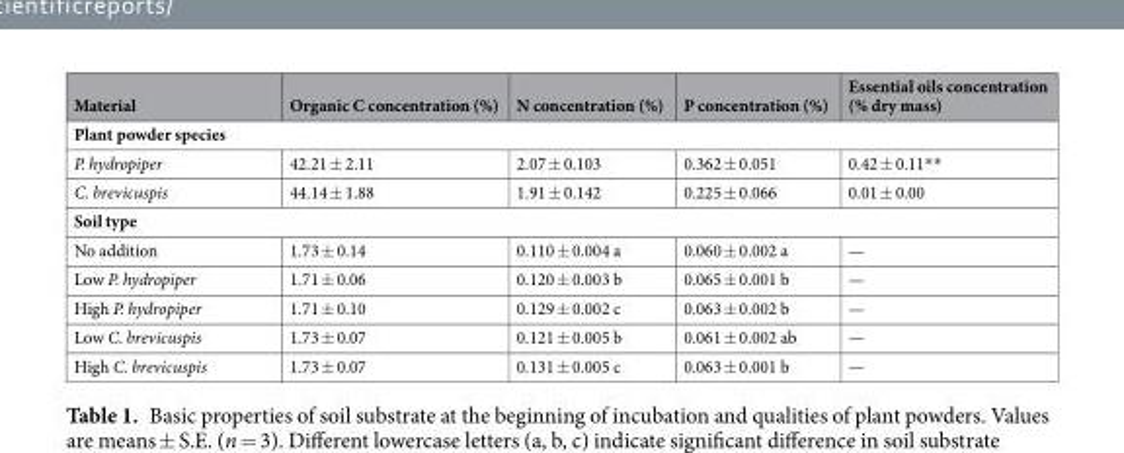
<table><thead><tr><td>Material</td><td>Organic C concentration (%)</td><td>N concentration (%)</td><td>P concentration (%)</td><td>Essential oils concentration (% dry mass)</td></tr></thead><tbody><tr><td colspan="5">Plant powder species</td></tr><tr><td>P. hydropiper</td><td>42.21 ± 2.11</td><td>2.07 ± 0.103</td><td>0.362 ± 0.051</td><td>0.42 ± 0.11**</td></tr><tr><td>C. brevicuspis</td><td>44.14 ± 1.88</td><td>1.91 ± 0.142</td><td>0.225 ± 0.066</td><td>0.01 ± 0.00</td></tr><tr><td colspan="5">Soil type</td></tr><tr><td>No addition</td><td>1.73 ± 0.14</td><td>0.110 ± 0.004 a</td><td>0.060 ± 0.002 a</td><td>—</td></tr><tr><td>Low P. hydropiper</td><td>1.71 ± 0.06</td><td>0.120 ± 0.003 b</td><td>0.065 ± 0.001 b</td><td>—</td></tr><tr><td>High P. hydropiper</td><td>1.71 ± 0.10</td><td>0.129 ± 0.002 c</td><td>0.063 ± 0.002 b</td><td>—</td></tr><tr><td>Low C. brevicuspis</td><td>1.73 ± 0.07</td><td>0.121 ± 0.005 b</td><td>0.061 ± 0.002 ab</td><td>—</td></tr><tr><td>High C. brevicuspis</td><td>1.73 ± 0.07</td><td>0.131 ± 0.005 c</td><td>0.063 ± 0.001 b</td><td>—</td></tr></tbody></table>